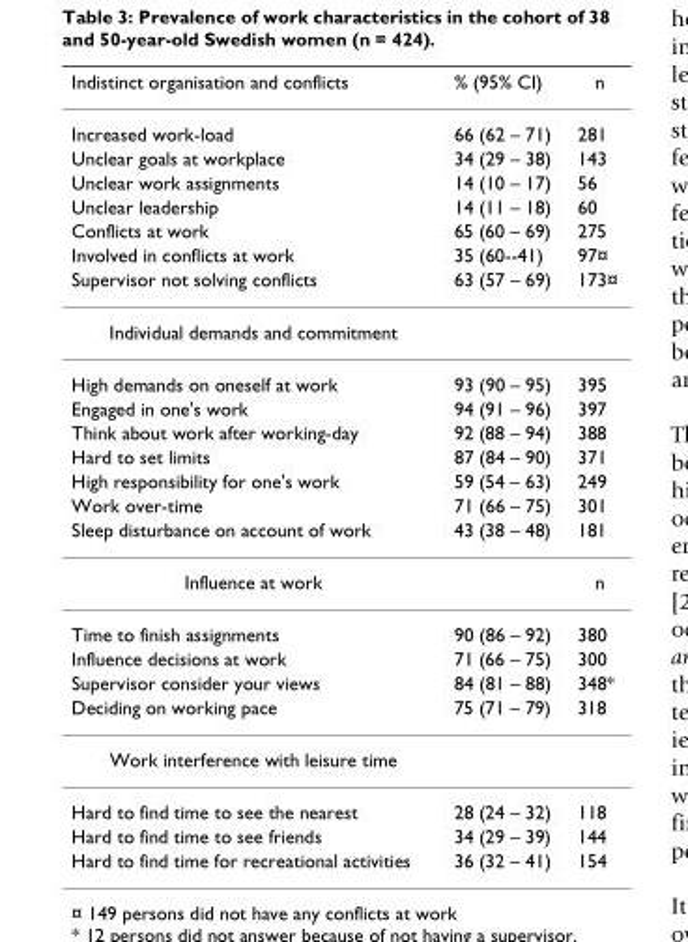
<table><thead><tr><td>Indistinct organisation and conflicts</td><td>% (95% CI)</td><td>n</td></tr></thead><tbody><tr><td>Increased work-load</td><td>66 (62 – 71)</td><td>281</td></tr><tr><td>Unclear goals at workplace</td><td>34 (29 – 38)</td><td>143</td></tr><tr><td>Unclear work assignments</td><td>14 (10 – 17)</td><td>56</td></tr><tr><td>Unclear leadership</td><td>14 (11 – 18)</td><td>60</td></tr><tr><td>Conflicts at work</td><td>65 (60 – 69)</td><td>275</td></tr><tr><td>Involved in conflicts at work</td><td>35 (60--41)</td><td>97¤</td></tr><tr><td>Supervisor not solving conflicts</td><td>63 (57 – 69)</td><td>173¤</td></tr><tr><td colspan="3">Individual demands and commitment</td></tr><tr><td>High demands on oneself at work</td><td>93 (90 – 95)</td><td>395</td></tr><tr><td>Engaged in one&#x27;s work</td><td>94 (91 – 96)</td><td>397</td></tr><tr><td>Think about work after working-day</td><td>92 (88 – 94)</td><td>388</td></tr><tr><td>Hard to set limits</td><td>87 (84 – 90)</td><td>371</td></tr><tr><td>High responsibility for one&#x27;s work</td><td>59 (54 – 63)</td><td>249</td></tr><tr><td>Work over-time</td><td>71 (66 – 75)</td><td>301</td></tr><tr><td>Sleep disturbance on account of work</td><td>43 (38 – 48)</td><td>181</td></tr><tr><td>Influence at work</td><td></td><td>n</td></tr><tr><td>Time to finish assignments</td><td>90 (86 – 92)</td><td>380</td></tr><tr><td>Influence decisions at work</td><td>71 (66 – 75)</td><td>300</td></tr><tr><td>Supervisor consider your views</td><td>84 (81 – 88)</td><td>348*</td></tr><tr><td>Deciding on working pace</td><td>75 (71 – 79)</td><td>318</td></tr><tr><td colspan="3">Work interference with leisure time</td></tr><tr><td>Hard to find time to see the nearest</td><td>28 (24 – 32)</td><td>118</td></tr><tr><td>Hard to find time to see friends</td><td>34 (29 – 39)</td><td>144</td></tr><tr><td>Hard to find time for recreational activities</td><td>36 (32 – 41)</td><td>154</td></tr></tbody></table>